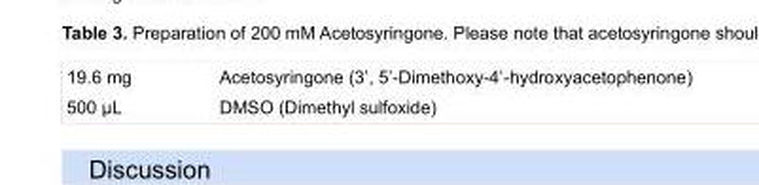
<table><tbody><tr><td>19.6 mg</td><td>Acetosyringone (3’, 5’-Dimethoxy-4’-hydroxyacetophenone)</td></tr><tr><td>500 μL</td><td>DMSO (Dimethyl sulfoxide)</td></tr></tbody></table>